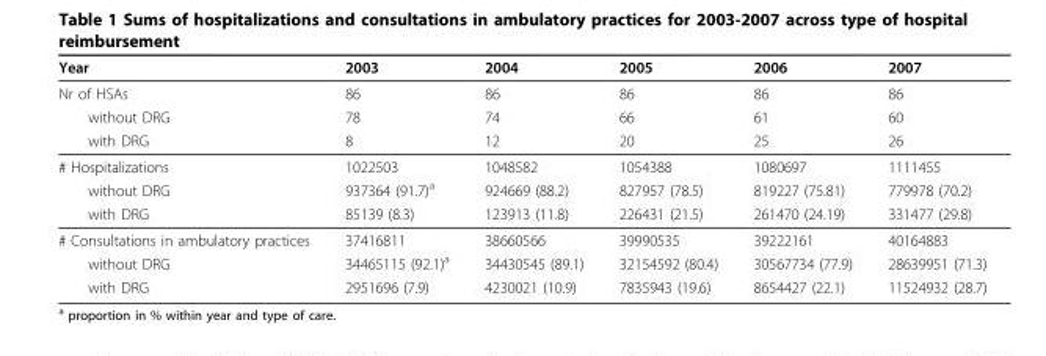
<table><thead><tr><td>Year</td><td>2003</td><td>2004</td><td>2005</td><td>2006</td><td>2007</td></tr></thead><tbody><tr><td>Nr of HSAs</td><td>86</td><td>86</td><td>86</td><td>86</td><td>86</td></tr><tr><td>without DRG</td><td>78</td><td>74</td><td>66</td><td>61</td><td>60</td></tr><tr><td>with DRG</td><td>8</td><td>12</td><td>20</td><td>25</td><td>26</td></tr><tr><td># Hospitalizations</td><td>1022503</td><td>1048582</td><td>1054388</td><td>1080697</td><td>1111455</td></tr><tr><td>without DRG</td><td>937364 (91.7)<sup>a</sup></td><td>924669 (88.2)</td><td>827957 (78.5)</td><td>819227 (75.81)</td><td>779978 (70.2)</td></tr><tr><td>with DRG</td><td>85139 (8.3)</td><td>123913 (11.8)</td><td>226431 (21.5)</td><td>261470 (24.19)</td><td>331477 (29.8)</td></tr><tr><td># Consultations in ambulatory practices</td><td>37416811</td><td>38660566</td><td>39990535</td><td>39222161</td><td>40164883</td></tr><tr><td>without DRG</td><td>34465115 (92.1)<sup>a</sup></td><td>34430545 (89.1)</td><td>32154592 (80.4)</td><td>30567734 (77.9)</td><td>28639951 (71.3)</td></tr><tr><td>with DRG</td><td>2951696 (7.9)</td><td>4230021 (10.9)</td><td>7835943 (19.6)</td><td>8654427 (22.1)</td><td>11524932 (28.7)</td></tr></tbody></table>